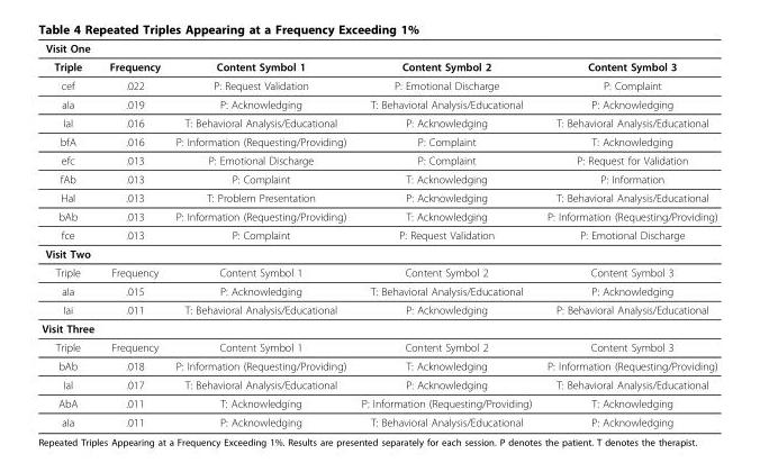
<table><thead><tr><td>Visit One</td><td></td><td></td><td></td><td></td></tr></thead><tbody><tr><td>Triple</td><td>Frequency</td><td>Content Symbol 1</td><td>Content Symbol 2</td><td>Content Symbol 3</td></tr><tr><td>cef</td><td>.022</td><td>P: Request Validation</td><td>P: Emotional Discharge</td><td>P: Complaint</td></tr><tr><td>aIa</td><td>.019</td><td>P: Acknowledging</td><td>T: Behavioral Analysis/Educational</td><td>P: Acknowledging</td></tr><tr><td>IaI</td><td>.016</td><td>T: Behavioral Analysis/Educational</td><td>P: Acknowledging</td><td>T: Behavioral Analysis/Educational</td></tr><tr><td>bfA</td><td>.016</td><td>P: Information (Requesting/Providing)</td><td>P: Complaint</td><td>T: Acknowledging</td></tr><tr><td>efc</td><td>.013</td><td>P: Emotional Discharge</td><td>P: Complaint</td><td>P: Request for Validation</td></tr><tr><td>fAb</td><td>.013</td><td>P: Complaint</td><td>T: Acknowledging</td><td>P: Information</td></tr><tr><td>HaI</td><td>.013</td><td>T: Problem Presentation</td><td>P: Acknowledging</td><td>T: Behavioral Analysis/Educational</td></tr><tr><td>bAb</td><td>.013</td><td>P: Information (Requesting/Providing)</td><td>T: Acknowledging</td><td>P: Information (Requesting/Providing)</td></tr><tr><td>fce</td><td>.013</td><td>P: Complaint</td><td>P: Request Validation</td><td>P: Emotional Discharge</td></tr><tr><td colspan="5">Visit Two</td></tr><tr><td>Triple</td><td>Frequency</td><td>Content Symbol 1</td><td>Content Symbol 2</td><td>Content Symbol 3</td></tr><tr><td>aIa</td><td>.015</td><td>P: Acknowledging</td><td>T: Behavioral Analysis/Educational</td><td>P: Acknowledging</td></tr><tr><td>Iai</td><td>.011</td><td>T: Behavioral Analysis/Educational</td><td>P: Acknowledging</td><td>P: Behavioral Analysis/Educational</td></tr><tr><td colspan="5">Visit Three</td></tr><tr><td>Triple</td><td>Frequency</td><td>Content Symbol 1</td><td>Content Symbol 2</td><td>Content Symbol 3</td></tr><tr><td>bAb</td><td>.018</td><td>P: Information (Requesting/Providing)</td><td>T: Acknowledging</td><td>P: Information (Requesting/Providing)</td></tr><tr><td>IaI</td><td>.017</td><td>T: Behavioral Analysis/Educational</td><td>P: Acknowledging</td><td>T: Behavioral Analysis/Educational</td></tr><tr><td>AbA</td><td>.011</td><td>T: Acknowledging</td><td>P: Information (Requesting/Providing)</td><td>T: Acknowledging</td></tr><tr><td>aIa</td><td>.011</td><td>P: Acknowledging</td><td>T: Behavioral Analysis/Educational</td><td>P: Acknowledging</td></tr></tbody></table>